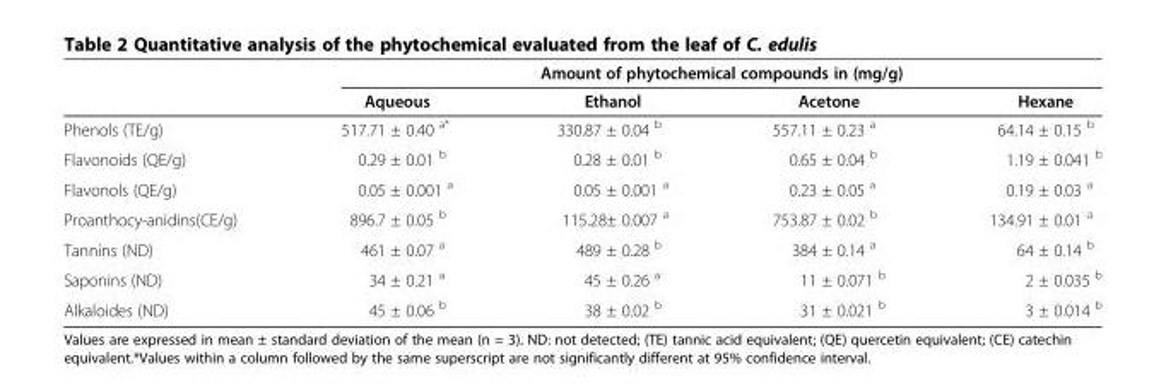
<table><thead><tr><td rowspan="2"></td><td colspan="4">Amount of phytochemical compounds in (mg/g)</td></tr><tr><td>Aqueous</td><td>Ethanol</td><td>Acetone</td><td>Hexane</td></tr></thead><tbody><tr><td>Phenols (TE/g)</td><td>517.71 ± 0.40 a*</td><td>330.87 ± 0.04 <sup>b</sup></td><td>557.11 ± 0.23 <sup>a</sup></td><td>64.14 ± 0.15 <sup>b</sup></td></tr><tr><td>Flavonoids (QE/g)</td><td>0.29 ± 0.01 <sup>b</sup></td><td>0.28 ± 0.01 <sup>b</sup></td><td>0.65 ± 0.04 <sup>b</sup></td><td>1.19 ± 0.041 <sup>b</sup></td></tr><tr><td>Flavonols (QE/g)</td><td>0.05 ± 0.001 <sup>a</sup></td><td>0.05 ± 0.001 <sup>a</sup></td><td>0.23 ± 0.05 <sup>a</sup></td><td>0.19 ± 0.03 <sup>a</sup></td></tr><tr><td>Proanthocy-anidins(CE/g)</td><td>896.7 ± 0.05 <sup>b</sup></td><td>115.28± 0.007 <sup>a</sup></td><td>753.87 ± 0.02 <sup>b</sup></td><td>134.91 ± 0.01 <sup>a</sup></td></tr><tr><td>Tannins (ND)</td><td>461 ± 0.07 <sup>a</sup></td><td>489 ± 0.28 <sup>b</sup></td><td>384 ± 0.14 <sup>a</sup></td><td>64 ± 0.14 <sup>b</sup></td></tr><tr><td>Saponins (ND)</td><td>34 ± 0.21 <sup>a</sup></td><td>45 ± 0.26 <sup>a</sup></td><td>11 ± 0.071 <sup>b</sup></td><td>2 ± 0.035 <sup>b</sup></td></tr><tr><td>Alkaloides (ND)</td><td>45 ± 0.06 <sup>b</sup></td><td>38 ± 0.02 <sup>b</sup></td><td>31 ± 0.021 <sup>b</sup></td><td>3 ± 0.014 <sup>b</sup></td></tr></tbody></table>